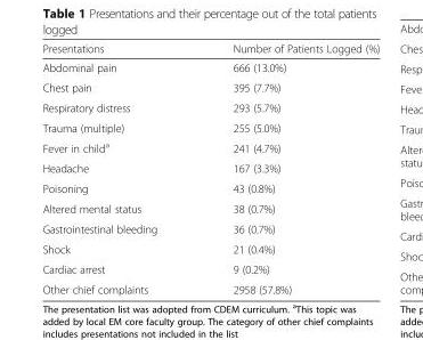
<table><thead><tr><td>Presentations</td><td>Number of Patients Logged (%)</td></tr></thead><tbody><tr><td>Abdominal pain</td><td>666 (13.0%)</td></tr><tr><td>Chest pain</td><td>395 (7.7%)</td></tr><tr><td>Respiratory distress</td><td>293 (5.7%)</td></tr><tr><td>Trauma (multiple)</td><td>255 (5.0%)</td></tr><tr><td>Fever in child<sup>a</sup></td><td>241 (4.7%)</td></tr><tr><td>Headache</td><td>167 (3.3%)</td></tr><tr><td>Poisoning</td><td>43 (0.8%)</td></tr><tr><td>Altered mental status</td><td>38 (0.7%)</td></tr><tr><td>Gastrointestinal bleeding</td><td>36 (0.7%)</td></tr><tr><td>Shock</td><td>21 (0.4%)</td></tr><tr><td>Cardiac arrest</td><td>9 (0.2%)</td></tr><tr><td>Other chief complaints</td><td>2958 (57.8%)</td></tr></tbody></table>